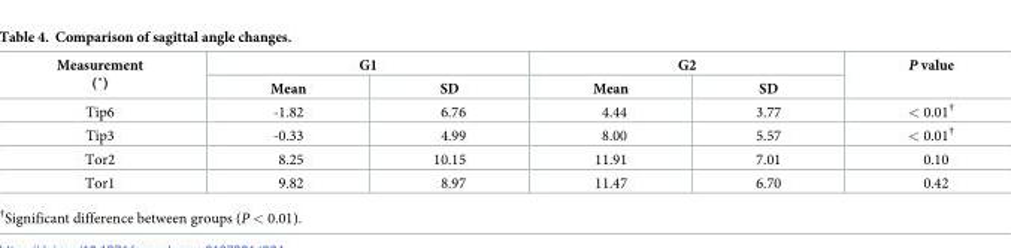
<table><thead><tr><td rowspan="2">Measurement (˚)</td><td colspan="2">G1</td><td colspan="2">G2</td><td rowspan="2">P value</td></tr><tr><td>Mean</td><td>SD</td><td>Mean</td><td>SD</td></tr></thead><tbody><tr><td>Tip6</td><td>-1.82</td><td>6.76</td><td>4.44</td><td>3.77</td><td>&lt; 0.01<sup>†</sup></td></tr><tr><td>Tip3</td><td>-0.33</td><td>4.99</td><td>8.00</td><td>5.57</td><td>&lt; 0.01<sup>†</sup></td></tr><tr><td>Tor2</td><td>8.25</td><td>10.15</td><td>11.91</td><td>7.01</td><td>0.10</td></tr><tr><td>Tor1</td><td>9.82</td><td>8.97</td><td>11.47</td><td>6.70</td><td>0.42</td></tr></tbody></table>